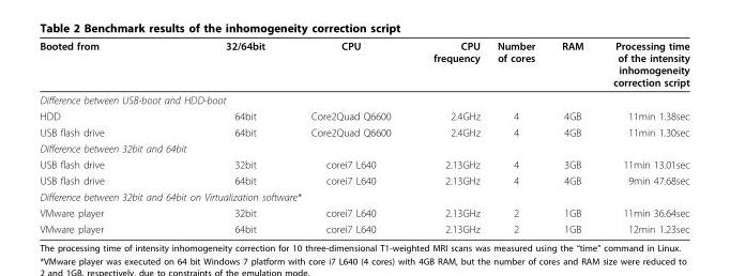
<table><thead><tr><td>Booted from</td><td>32/64bit</td><td>CPU</td><td>CPU frequency</td><td>Number of cores</td><td>RAM</td><td>Processing time of the intensity inhomogeneity correction script</td></tr></thead><tbody><tr><td colspan="7">Difference between USB-boot and HDD-boot</td></tr><tr><td>HDD</td><td>64bit</td><td>Core2Quad Q6600</td><td>2.4GHz</td><td>4</td><td>4GB</td><td>11min 1.38sec</td></tr><tr><td>USB flash drive</td><td>64bit</td><td>Core2Quad Q6600</td><td>2.4GHz</td><td>4</td><td>4GB</td><td>11min 1.30sec</td></tr><tr><td colspan="7">Difference between 32bit and 64bit</td></tr><tr><td>USB flash drive</td><td>32bit</td><td>corei7 L640</td><td>2.13GHz</td><td>4</td><td>3GB</td><td>11min 13.01sec</td></tr><tr><td>USB flash drive</td><td>64bit</td><td>corei7 L640</td><td>2.13GHz</td><td>4</td><td>4GB</td><td>9min 47.68sec</td></tr><tr><td colspan="7">Difference between 32bit and 64bit on Virtualization software*</td></tr><tr><td>VMware player</td><td>32bit</td><td>corei7 L640</td><td>2.13GHz</td><td>2</td><td>1GB</td><td>11min 36.64sec</td></tr><tr><td>VMware player</td><td>64bit</td><td>corei7 L640</td><td>2.13GHz</td><td>2</td><td>1GB</td><td>12min 1.23sec</td></tr></tbody></table>